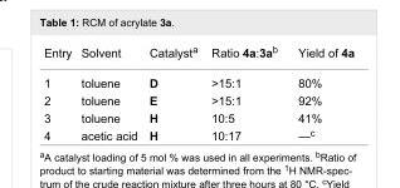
<table><tbody><tr><td>Entry</td><td>Solvent</td><td>Catalyst<sup>a</sup></td><td>Ratio 4a:3a<sup>b</sup></td><td>Yield of 4a</td></tr><tr><td>1</td><td>toluene</td><td>D</td><td>&gt;15:1</td><td>80%</td></tr><tr><td>2</td><td>toluene</td><td>E</td><td>&gt;15:1</td><td>92%</td></tr><tr><td>3</td><td>toluene</td><td>H</td><td>10:5</td><td>41%</td></tr><tr><td>4</td><td>acetic acid</td><td>H</td><td>10:17</td><td>—<sup>c</sup></td></tr></tbody></table>